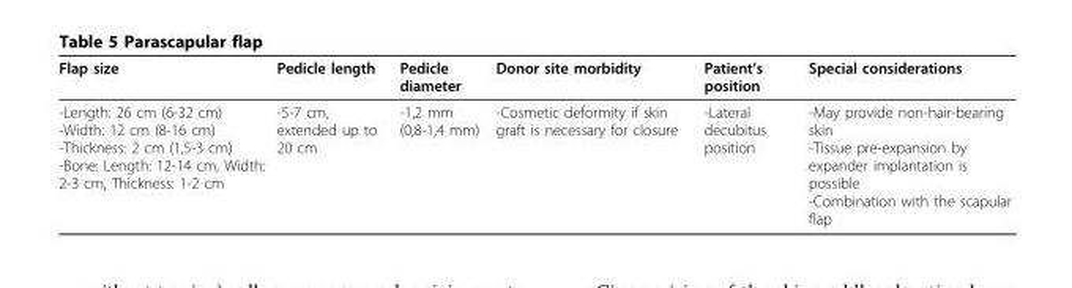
<table><thead><tr><td>Flap size</td><td>Pedicle length</td><td>Pedicle diameter</td><td>Donor site morbidity</td><td>Patient’s position</td><td>Special considerations</td></tr></thead><tbody><tr><td>-Length: 26 cm (6-32 cm) -Width: 12 cm (8-16 cm) -Thickness: 2 cm (1,5-3 cm) -Bone: Length: 12-14 cm, Width: 2-3 cm, Thickness: 1-2 cm</td><td>-5-7 cm, extended up to 20 cm</td><td>-1,2 mm (0,8-1,4 mm)</td><td>-Cosmetic deformity if skin graft is necessary for closure</td><td>-Lateral decubitus position</td><td>-May provide non-hair-bearing skin -Tissue pre-expansion by expander implantation is possible -Combination with the scapular flap</td></tr></tbody></table>